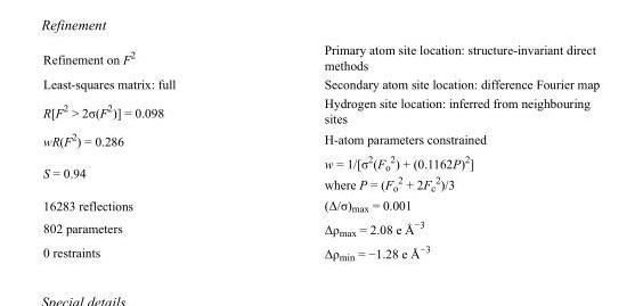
<table><tbody><tr><td>Refinement on F<sup>2</sup></td><td>Primary atom site location: structure-invariant direct methods</td></tr><tr><td>Least-squares matrix: full</td><td>Secondary atom site location: difference Fourier map</td></tr><tr><td>R[F<sup>2</sup> &gt; 2σ(F<sup>2</sup>)] = 0.098</td><td>Hydrogen site location: inferred from neighbouring sites</td></tr><tr><td>wR(F<sup>2</sup>) = 0.286</td><td>H-atom parameters constrained</td></tr><tr><td>S = 0.94</td><td>w = 1/[σ<sup>2</sup>(F<sub>o</sub> <sup>2</sup>) + (0.1162P)<sup>2</sup>] where P = (F<sub>o</sub> <sup>2</sup> + 2F<sub>c</sub> <sup>2</sup>)/3</td></tr><tr><td>16283 reflections</td><td>(Δ/σ)<sub>max</sub> = 0.001</td></tr><tr><td>802 parameters</td><td>Δρ<sub>max</sub> = 2.08 e Å<sup>−3</sup></td></tr><tr><td>0 restraints</td><td>Δρ<sub>min</sub> = −1.28 e Å<sup>−3</sup></td></tr></tbody></table>